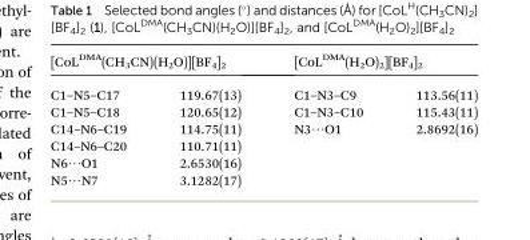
<table><thead><tr><td colspan="2">[CoL<sup>DMA</sup>(CH<sub>3</sub>CN)(H<sub>2</sub>O)][BF<sub>4</sub>]<sub>2</sub></td><td colspan="2">[CoL<sup>DMA</sup>(H<sub>2</sub>O)<sub>2</sub>][BF<sub>4</sub>]<sub>2</sub></td></tr><tr><td>C1–N5–C17</td><td>119.67(13)</td><td>C1–N3–C9</td><td>113.56(11)</td></tr></thead><tbody><tr><td>C1–N5–C18</td><td>120.65(12)</td><td>C1–N3–C10</td><td>115.43(11)</td></tr><tr><td>C14–N6–C19</td><td>114.75(11)</td><td>N3/O1</td><td>2.8692(16)</td></tr><tr><td>C14–N6–C20</td><td>110.71(11)</td><td></td><td></td></tr><tr><td>N6/O1</td><td>2.6530(16)</td><td></td><td></td></tr><tr><td>N5/N7</td><td>3.1282(17)</td><td></td><td></td></tr></tbody></table>